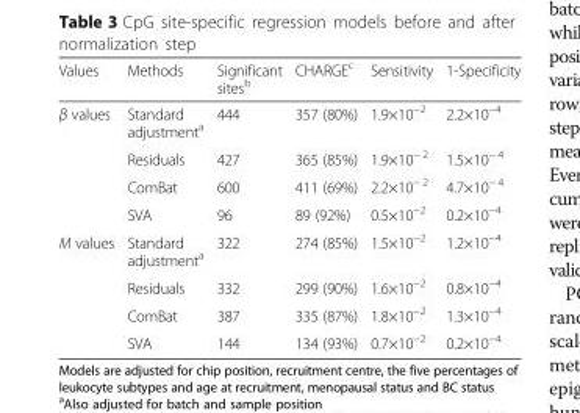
<table><thead><tr><td>Values</td><td>Methods</td><td>Significant sites<sup>b</sup></td><td>CHARGE<sup>c</sup></td><td>Sensitivity</td><td>1-Specificity</td></tr></thead><tbody><tr><td rowspan="4">β values</td><td>Standard adjustment<sup>a</sup></td><td>444</td><td>357 (80%)</td><td>1.9×10<sup>−2</sup></td><td>2.2×10<sup>−4</sup></td></tr><tr><td>Residuals</td><td>427</td><td>365 (85%)</td><td>1.9×10<sup>− 2</sup></td><td>1.5×10<sup>− 4</sup></td></tr><tr><td>ComBat</td><td>600</td><td>411 (69%)</td><td>2.2×10<sup>− 2</sup></td><td>4.7×10<sup>− 4</sup></td></tr><tr><td>SVA</td><td>96</td><td>89 (92%)</td><td>0.5×10<sup>−2</sup></td><td>0.2×10<sup>−4</sup></td></tr><tr><td rowspan="4">M values</td><td>Standard adjustment<sup>a</sup></td><td>322</td><td>274 (85%)</td><td>1.5×10<sup>−2</sup></td><td>1.2×10<sup>−4</sup></td></tr><tr><td>Residuals</td><td>332</td><td>299 (90%)</td><td>1.6×10<sup>−2</sup></td><td>0.8×10<sup>−4</sup></td></tr><tr><td>ComBat</td><td>387</td><td>335 (87%)</td><td>1.8×10<sup>−2</sup></td><td>1.3×10<sup>−4</sup></td></tr><tr><td>SVA</td><td>144</td><td>134 (93%)</td><td>0.7×10<sup>−2</sup></td><td>0.2×10<sup>−4</sup></td></tr></tbody></table>